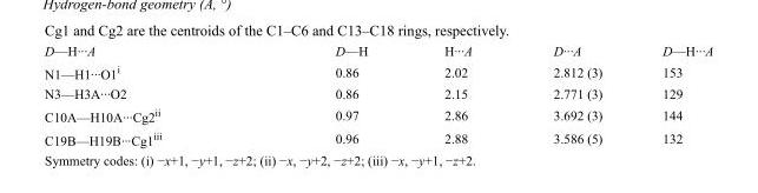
<table><tbody><tr><td>D—H···A</td><td>D—H</td><td>H···A</td><td>D···A</td><td>D—H···A</td></tr><tr><td>N1—H1···O1<sup>i</sup></td><td>0.86</td><td>2.02</td><td>2.812 (3)</td><td>153</td></tr><tr><td>N3—H3A···O2</td><td>0.86</td><td>2.15</td><td>2.771 (3)</td><td>129</td></tr><tr><td>C10A—H10A···Cg2<sup>ii</sup></td><td>0.97</td><td>2.86</td><td>3.692 (3)</td><td>144</td></tr><tr><td>C19B—H19B···Cg1<sup>iii</sup></td><td>0.96</td><td>2.88</td><td>3.586 (5)</td><td>132</td></tr></tbody></table>